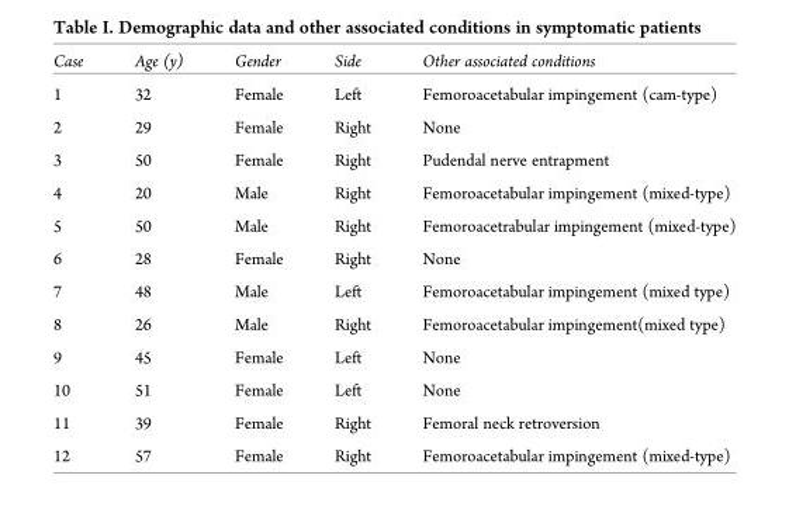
<table><thead><tr><td>Case</td><td>Age (y)</td><td>Gender</td><td>Side</td><td>Other associated conditions</td></tr></thead><tbody><tr><td>1</td><td>32</td><td>Female</td><td>Left</td><td>Femoroacetabular impingement (cam-type)</td></tr><tr><td>2</td><td>29</td><td>Female</td><td>Right</td><td>None</td></tr><tr><td>3</td><td>50</td><td>Female</td><td>Right</td><td>Pudendal nerve entrapment</td></tr><tr><td>4</td><td>20</td><td>Male</td><td>Right</td><td>Femoroacetabular impingement (mixed-type)</td></tr><tr><td>5</td><td>50</td><td>Male</td><td>Right</td><td>Femoroacetrabular impingement (mixed-type)</td></tr><tr><td>6</td><td>28</td><td>Female</td><td>Right</td><td>None</td></tr><tr><td>7</td><td>48</td><td>Male</td><td>Left</td><td>Femoroacetabular impingement (mixed type)</td></tr><tr><td>8</td><td>26</td><td>Male</td><td>Right</td><td>Femoroacetabular impingement(mixed type)</td></tr><tr><td>9</td><td>45</td><td>Female</td><td>Left</td><td>None</td></tr><tr><td>10</td><td>51</td><td>Female</td><td>Left</td><td>None</td></tr><tr><td>11</td><td>39</td><td>Female</td><td>Right</td><td>Femoral neck retroversion</td></tr><tr><td>12</td><td>57</td><td>Female</td><td>Right</td><td>Femoroacetabular impingement (mixed-type)</td></tr></tbody></table>